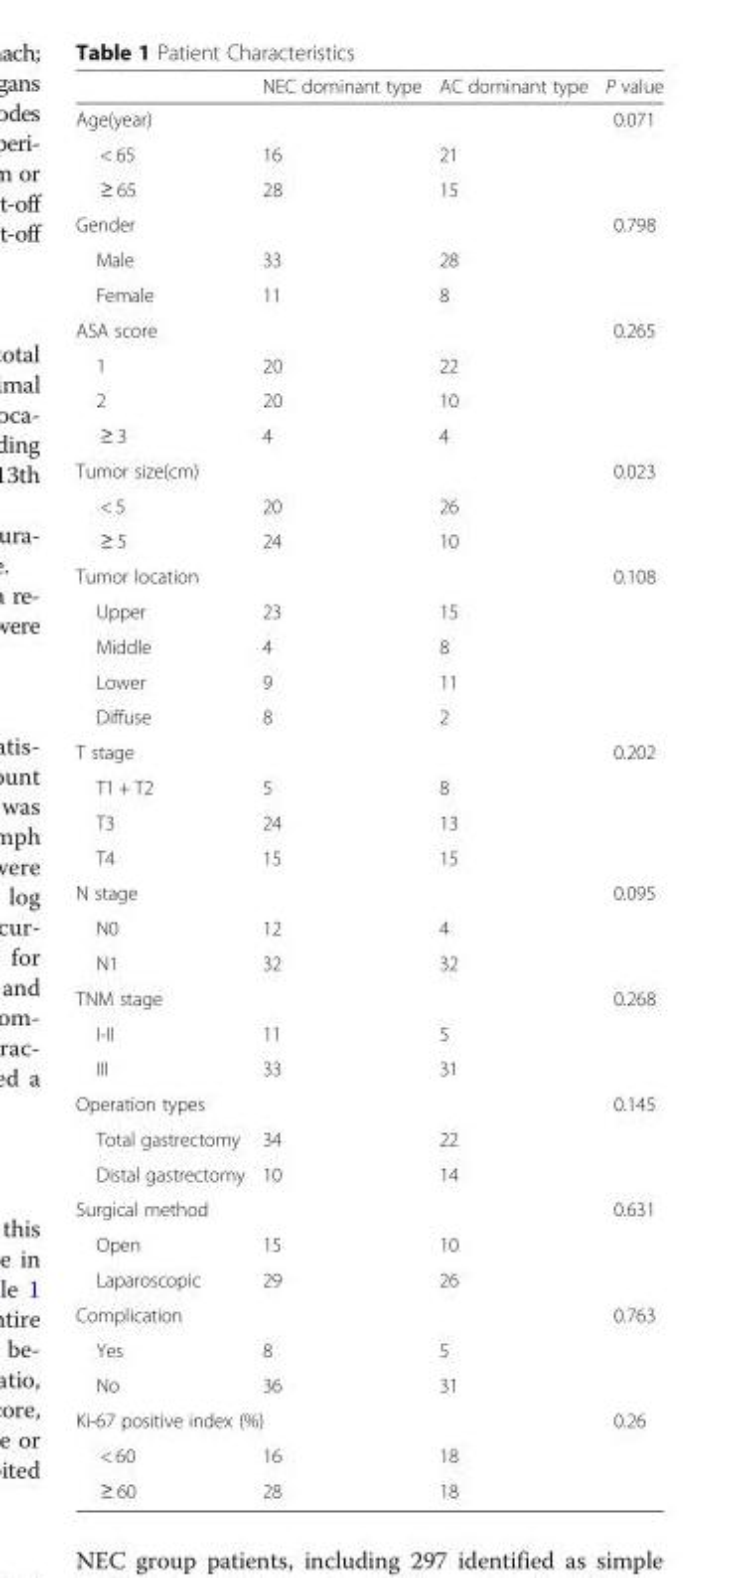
<table><thead><tr><td></td><td>NEC dominant type</td><td>AC dominant type</td><td>P value</td></tr></thead><tbody><tr><td colspan="3">Age(year)</td><td>0.071</td></tr><tr><td>&lt; 65</td><td>16</td><td>21</td><td></td></tr><tr><td>≥ 65</td><td>28</td><td>15</td><td></td></tr><tr><td colspan="3">Gender</td><td>0.798</td></tr><tr><td>Male</td><td>33</td><td>28</td><td></td></tr><tr><td>Female</td><td>11</td><td>8</td><td></td></tr><tr><td colspan="3">ASA score</td><td>0.265</td></tr><tr><td>1</td><td>20</td><td>22</td><td></td></tr><tr><td>2</td><td>20</td><td>10</td><td></td></tr><tr><td>≥ 3</td><td>4</td><td>4</td><td></td></tr><tr><td colspan="3">Tumor size(cm)</td><td>0.023</td></tr><tr><td>&lt; 5</td><td>20</td><td>26</td><td></td></tr><tr><td>≥ 5</td><td>24</td><td>10</td><td></td></tr><tr><td colspan="3">Tumor location</td><td>0.108</td></tr><tr><td>Upper</td><td>23</td><td>15</td><td></td></tr><tr><td>Middle</td><td>4</td><td>8</td><td></td></tr><tr><td>Lower</td><td>9</td><td>11</td><td></td></tr><tr><td>Diffuse</td><td>8</td><td>2</td><td></td></tr><tr><td colspan="3">T stage</td><td>0.202</td></tr><tr><td>T1 + T2</td><td>5</td><td>8</td><td></td></tr><tr><td>T3</td><td>24</td><td>13</td><td></td></tr><tr><td>T4</td><td>15</td><td>15</td><td></td></tr><tr><td colspan="3">N stage</td><td>0.095</td></tr><tr><td>N0</td><td>12</td><td>4</td><td></td></tr><tr><td>N1</td><td>32</td><td>32</td><td></td></tr><tr><td colspan="3">TNM stage</td><td>0.268</td></tr><tr><td>I-II</td><td>11</td><td>5</td><td></td></tr><tr><td>III</td><td>33</td><td>31</td><td></td></tr><tr><td colspan="3">Operation types</td><td>0.145</td></tr><tr><td>Total gastrectomy</td><td>34</td><td>22</td><td></td></tr><tr><td>Distal gastrectomy</td><td>10</td><td>14</td><td></td></tr><tr><td colspan="3">Surgical method</td><td>0.631</td></tr><tr><td>Open</td><td>15</td><td>10</td><td></td></tr><tr><td>Laparoscopic</td><td>29</td><td>26</td><td></td></tr><tr><td colspan="3">Complication</td><td>0.763</td></tr><tr><td>Yes</td><td>8</td><td>5</td><td></td></tr><tr><td>No</td><td>36</td><td>31</td><td></td></tr><tr><td colspan="3">Ki-67 positive index (%)</td><td>0.26</td></tr><tr><td>&lt; 60</td><td>16</td><td>18</td><td></td></tr><tr><td>≥ 60</td><td>28</td><td>18</td><td></td></tr></tbody></table>